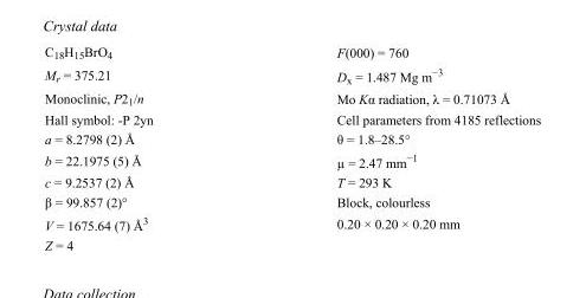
<table><tbody><tr><td>C<sub>18</sub>H<sub>15</sub>BrO<sub>4</sub></td><td>F(000) = 760</td></tr><tr><td>M<sub>r</sub> = 375.21</td><td>D<sub>x</sub> = 1.487 Mg m<sup>−3</sup></td></tr><tr><td>Monoclinic, P2<sub>1</sub>/n</td><td>Mo Kα radiation, λ = 0.71073 Å</td></tr><tr><td>Hall symbol: -P 2yn</td><td>Cell parameters from 4185 reflections</td></tr><tr><td>a = 8.2798 (2) Å</td><td>θ = 1.8–28.5°</td></tr><tr><td>b = 22.1975 (5) Å</td><td>µ = 2.47 mm<sup>−1</sup></td></tr><tr><td>c = 9.2537 (2) Å</td><td>T = 293 K</td></tr><tr><td>β = 99.857 (2)°</td><td>Block, colourless</td></tr><tr><td>V = 1675.64 (7) Å<sup>3</sup></td><td>0.20 × 0.20 × 0.20 mm</td></tr><tr><td>Z = 4</td><td></td></tr></tbody></table>